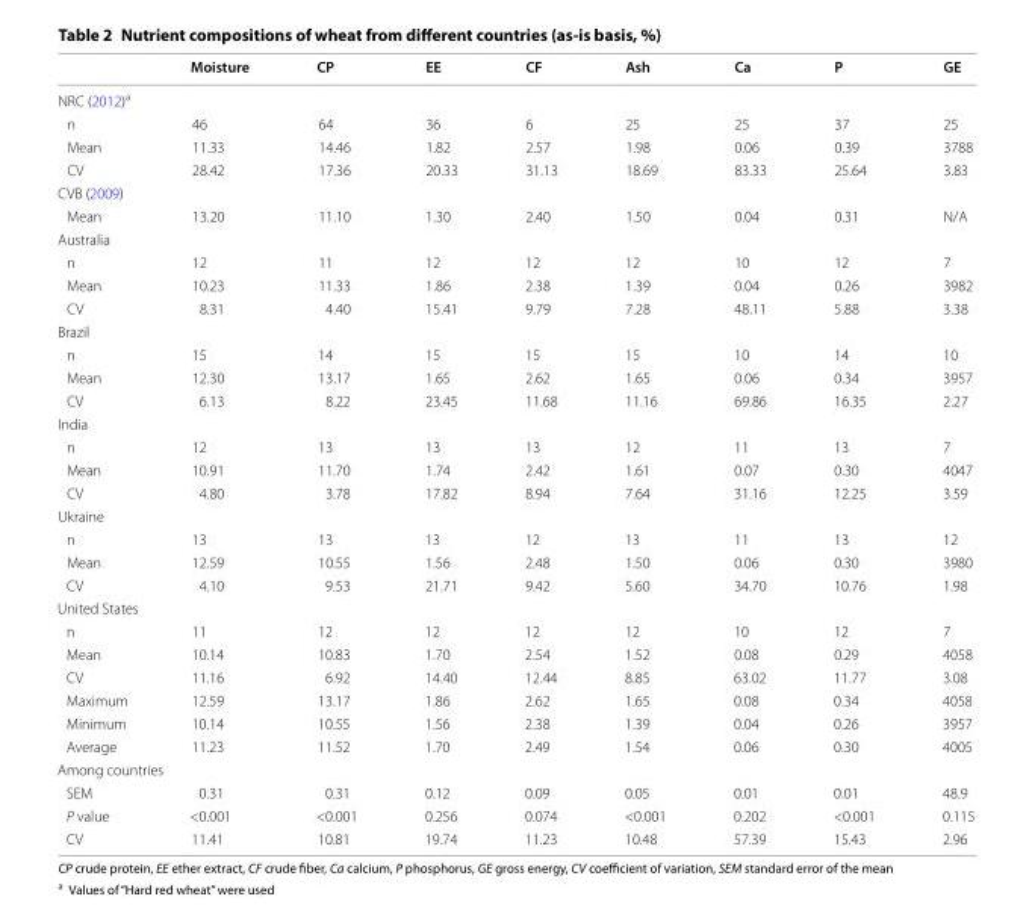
<table><thead><tr><td></td><td>Moisture</td><td>CP</td><td>EE</td><td>CF</td><td>Ash</td><td>Ca</td><td>P</td><td>GE</td></tr></thead><tbody><tr><td colspan="9">NRC (2012)<sup>a</sup></td></tr><tr><td>n</td><td>46</td><td>64</td><td>36</td><td>6</td><td>25</td><td>25</td><td>37</td><td>25</td></tr><tr><td>Mean</td><td>11.33</td><td>14.46</td><td>1.82</td><td>2.57</td><td>1.98</td><td>0.06</td><td>0.39</td><td>3788</td></tr><tr><td>CV</td><td>28.42</td><td>17.36</td><td>20.33</td><td>31.13</td><td>18.69</td><td>83.33</td><td>25.64</td><td>3.83</td></tr><tr><td colspan="9">CVB (2009)</td></tr><tr><td>Mean</td><td>13.20</td><td>11.10</td><td>1.30</td><td>2.40</td><td>1.50</td><td>0.04</td><td>0.31</td><td>N/A</td></tr><tr><td colspan="9">Australia</td></tr><tr><td>n</td><td>12</td><td>11</td><td>12</td><td>12</td><td>12</td><td>10</td><td>12</td><td>7</td></tr><tr><td>Mean</td><td>10.23</td><td>11.33</td><td>1.86</td><td>2.38</td><td>1.39</td><td>0.04</td><td>0.26</td><td>3982</td></tr><tr><td>CV</td><td>8.31</td><td>4.40</td><td>15.41</td><td>9.79</td><td>7.28</td><td>48.11</td><td>5.88</td><td>3.38</td></tr><tr><td colspan="9">Brazil</td></tr><tr><td>n</td><td>15</td><td>14</td><td>15</td><td>15</td><td>15</td><td>10</td><td>14</td><td>10</td></tr><tr><td>Mean</td><td>12.30</td><td>13.17</td><td>1.65</td><td>2.62</td><td>1.65</td><td>0.06</td><td>0.34</td><td>3957</td></tr><tr><td>CV</td><td>6.13</td><td>8.22</td><td>23.45</td><td>11.68</td><td>11.16</td><td>69.86</td><td>16.35</td><td>2.27</td></tr><tr><td colspan="9">India</td></tr><tr><td>n</td><td>12</td><td>13</td><td>13</td><td>13</td><td>12</td><td>11</td><td>13</td><td>7</td></tr><tr><td>Mean</td><td>10.91</td><td>11.70</td><td>1.74</td><td>2.42</td><td>1.61</td><td>0.07</td><td>0.30</td><td>4047</td></tr><tr><td>CV</td><td>4.80</td><td>3.78</td><td>17.82</td><td>8.94</td><td>7.64</td><td>31.16</td><td>12.25</td><td>3.59</td></tr><tr><td colspan="9">Ukraine</td></tr><tr><td>n</td><td>13</td><td>13</td><td>13</td><td>12</td><td>13</td><td>11</td><td>13</td><td>12</td></tr><tr><td>Mean</td><td>12.59</td><td>10.55</td><td>1.56</td><td>2.48</td><td>1.50</td><td>0.06</td><td>0.30</td><td>3980</td></tr><tr><td>CV</td><td>4.10</td><td>9.53</td><td>21.71</td><td>9.42</td><td>5.60</td><td>34.70</td><td>10.76</td><td>1.98</td></tr><tr><td colspan="9">United States</td></tr><tr><td>n</td><td>11</td><td>12</td><td>12</td><td>12</td><td>12</td><td>10</td><td>12</td><td>7</td></tr><tr><td>Mean</td><td>10.14</td><td>10.83</td><td>1.70</td><td>2.54</td><td>1.52</td><td>0.08</td><td>0.29</td><td>4058</td></tr><tr><td>CV</td><td>11.16</td><td>6.92</td><td>14.40</td><td>12.44</td><td>8.85</td><td>63.02</td><td>11.77</td><td>3.08</td></tr><tr><td>Maximum</td><td>12.59</td><td>13.17</td><td>1.86</td><td>2.62</td><td>1.65</td><td>0.08</td><td>0.34</td><td>4058</td></tr><tr><td>Minimum</td><td>10.14</td><td>10.55</td><td>1.56</td><td>2.38</td><td>1.39</td><td>0.04</td><td>0.26</td><td>3957</td></tr><tr><td>Average</td><td>11.23</td><td>11.52</td><td>1.70</td><td>2.49</td><td>1.54</td><td>0.06</td><td>0.30</td><td>4005</td></tr><tr><td colspan="9">Among countries</td></tr><tr><td>SEM</td><td>0.31</td><td>0.31</td><td>0.12</td><td>0.09</td><td>0.05</td><td>0.01</td><td>0.01</td><td>48.9</td></tr><tr><td>P value</td><td>&lt;0.001</td><td>&lt;0.001</td><td>0.256</td><td>0.074</td><td>&lt;0.001</td><td>0.202</td><td>&lt;0.001</td><td>0.115</td></tr><tr><td>CV</td><td>11.41</td><td>10.81</td><td>19.74</td><td>11.23</td><td>10.48</td><td>57.39</td><td>15.43</td><td>2.96</td></tr></tbody></table>